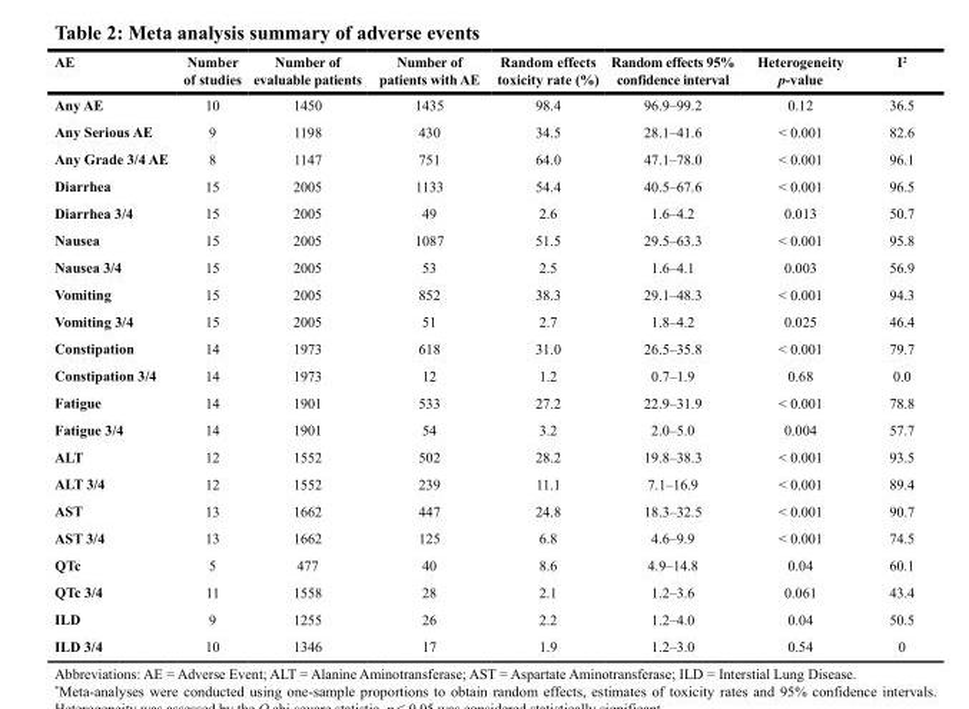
<table><thead><tr><td>AE</td><td>Number of studies</td><td>Number of evaluable patients</td><td>Number of patients with AE</td><td>Random effects toxicity rate (%)</td><td>Random effects 95% confidence interval</td><td>Heterogeneity p-value</td><td>I<sup>2</sup></td></tr></thead><tbody><tr><td>Any AE</td><td>10</td><td>1450</td><td>1435</td><td>98.4</td><td>96.9–99.2</td><td>0.12</td><td>36.5</td></tr><tr><td>Any Serious AE</td><td>9</td><td>1198</td><td>430</td><td>34.5</td><td>28.1–41.6</td><td>&lt; 0.001</td><td>82.6</td></tr><tr><td>Any Grade 3/4 AE</td><td>8</td><td>1147</td><td>751</td><td>64.0</td><td>47.1–78.0</td><td>&lt; 0.001</td><td>96.1</td></tr><tr><td>Diarrhea</td><td>15</td><td>2005</td><td>1133</td><td>54.4</td><td>40.5–67.6</td><td>&lt; 0.001</td><td>96.5</td></tr><tr><td>Diarrhea 3/4</td><td>15</td><td>2005</td><td>49</td><td>2.6</td><td>1.6–4.2</td><td>0.013</td><td>50.7</td></tr><tr><td>Nausea</td><td>15</td><td>2005</td><td>1087</td><td>51.5</td><td>29.5–63.3</td><td>&lt; 0.001</td><td>95.8</td></tr><tr><td>Nausea 3/4</td><td>15</td><td>2005</td><td>53</td><td>2.5</td><td>1.6–4.1</td><td>0.003</td><td>56.9</td></tr><tr><td>Vomiting</td><td>15</td><td>2005</td><td>852</td><td>38.3</td><td>29.1–48.3</td><td>&lt; 0.001</td><td>94.3</td></tr><tr><td>Vomiting 3/4</td><td>15</td><td>2005</td><td>51</td><td>2.7</td><td>1.8–4.2</td><td>0.025</td><td>46.4</td></tr><tr><td>Constipation</td><td>14</td><td>1973</td><td>618</td><td>31.0</td><td>26.5–35.8</td><td>&lt; 0.001</td><td>79.7</td></tr><tr><td>Constipation 3/4</td><td>14</td><td>1973</td><td>12</td><td>1.2</td><td>0.7–1.9</td><td>0.68</td><td>0.0</td></tr><tr><td>Fatigue</td><td>14</td><td>1901</td><td>533</td><td>27.2</td><td>22.9–31.9</td><td>&lt; 0.001</td><td>78.8</td></tr><tr><td>Fatigue 3/4</td><td>14</td><td>1901</td><td>54</td><td>3.2</td><td>2.0–5.0</td><td>0.004</td><td>57.7</td></tr><tr><td>ALT</td><td>12</td><td>1552</td><td>502</td><td>28.2</td><td>19.8–38.3</td><td>&lt; 0.001</td><td>93.5</td></tr><tr><td>ALT 3/4</td><td>12</td><td>1552</td><td>239</td><td>11.1</td><td>7.1–16.9</td><td>&lt; 0.001</td><td>89.4</td></tr><tr><td>AST</td><td>13</td><td>1662</td><td>447</td><td>24.8</td><td>18.3–32.5</td><td>&lt; 0.001</td><td>90.7</td></tr><tr><td>AST 3/4</td><td>13</td><td>1662</td><td>125</td><td>6.8</td><td>4.6–9.9</td><td>&lt; 0.001</td><td>74.5</td></tr><tr><td>QTc</td><td>5</td><td>477</td><td>40</td><td>8.6</td><td>4.9–14.8</td><td>0.04</td><td>60.1</td></tr><tr><td>QTc 3/4</td><td>11</td><td>1558</td><td>28</td><td>2.1</td><td>1.2–3.6</td><td>0.061</td><td>43.4</td></tr><tr><td>ILD</td><td>9</td><td>1255</td><td>26</td><td>2.2</td><td>1.2–4.0</td><td>0.04</td><td>50.5</td></tr><tr><td>ILD 3/4</td><td>10</td><td>1346</td><td>17</td><td>1.9</td><td>1.2–3.0</td><td>0.54</td><td>0</td></tr></tbody></table>